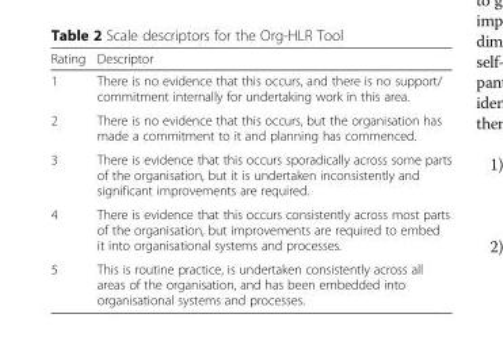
<table><thead><tr><td>Rating</td><td>Descriptor</td></tr></thead><tbody><tr><td>1</td><td>There is no evidence that this occurs, and there is no support/ commitment internally for undertaking work in this area.</td></tr><tr><td>2</td><td>There is no evidence that this occurs, but the organisation has made a commitment to it and planning has commenced.</td></tr><tr><td>3</td><td>There is evidence that this occurs sporadically across some parts of the organisation, but it is undertaken inconsistently and significant improvements are required.</td></tr><tr><td>4</td><td>There is evidence that this occurs consistently across most parts of the organisation, but improvements are required to embed it into organisational systems and processes.</td></tr><tr><td>5</td><td>This is routine practice, is undertaken consistently across all areas of the organisation, and has been embedded into organisational systems and processes.</td></tr></tbody></table>